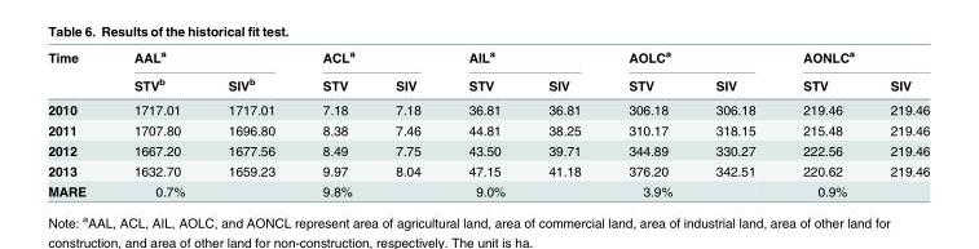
<table><thead><tr><td rowspan="2">Time</td><td colspan="2">AAL<sup>a</sup></td><td colspan="2">ACL<sup>a</sup></td><td colspan="2">AIL<sup>a</sup></td><td colspan="2">AOLC<sup>a</sup></td><td colspan="2">AONLC<sup>a</sup></td></tr><tr><td>STV<sup>b</sup></td><td>SIV<sup>b</sup></td><td>STV</td><td>SIV</td><td>STV</td><td>SIV</td><td>STV</td><td>SIV</td><td>STV</td><td>SIV</td></tr></thead><tbody><tr><td>2010</td><td>1717.01</td><td>1717.01</td><td>7.18</td><td>7.18</td><td>36.81</td><td>36.81</td><td>306.18</td><td>306.18</td><td>219.46</td><td>219.46</td></tr><tr><td>2011</td><td>1707.80</td><td>1696.80</td><td>8.38</td><td>7.46</td><td>44.81</td><td>38.25</td><td>310.17</td><td>318.15</td><td>215.48</td><td>219.46</td></tr><tr><td>2012</td><td>1667.20</td><td>1677.56</td><td>8.49</td><td>7.75</td><td>43.50</td><td>39.71</td><td>344.89</td><td>330.27</td><td>222.56</td><td>219.46</td></tr><tr><td>2013</td><td>1632.70</td><td>1659.23</td><td>9.97</td><td>8.04</td><td>47.15</td><td>41.18</td><td>376.20</td><td>342.51</td><td>220.62</td><td>219.46</td></tr><tr><td>MARE</td><td colspan="2">0.7%</td><td colspan="2">9.8%</td><td colspan="2">9.0%</td><td colspan="2">3.9%</td><td colspan="2">0.9%</td></tr></tbody></table>